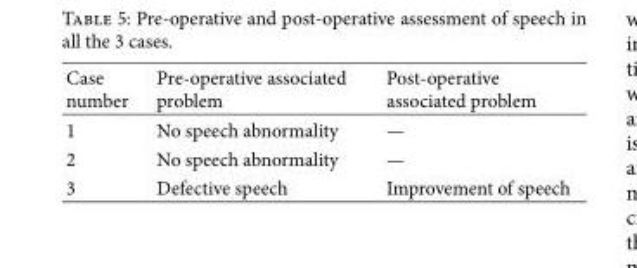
<table><thead><tr><td>Case number</td><td>Pre-operative associated problem</td><td>Post-operative associated problem</td></tr></thead><tbody><tr><td>1</td><td>No speech abnormality</td><td>—</td></tr><tr><td>2</td><td>No speech abnormality</td><td>—</td></tr><tr><td>3</td><td>Defective speech</td><td>Improvement of speech</td></tr></tbody></table>